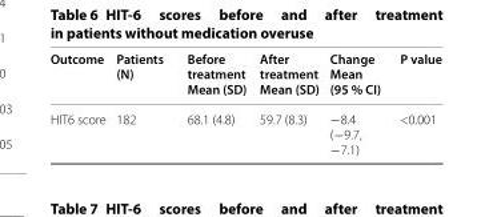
<table><thead><tr><td>Outcome</td><td>Patients (N)</td><td>Before treatment Mean (SD)</td><td>After treatment Mean (SD)</td><td>Change Mean (95 % CI)</td><td>P value</td></tr></thead><tbody><tr><td>HIT6 score</td><td>182</td><td>68.1 (4.8)</td><td>59.7 (8.3)</td><td>−8.4 (−9.7, −7.1)</td><td>&lt;0.001</td></tr></tbody></table>